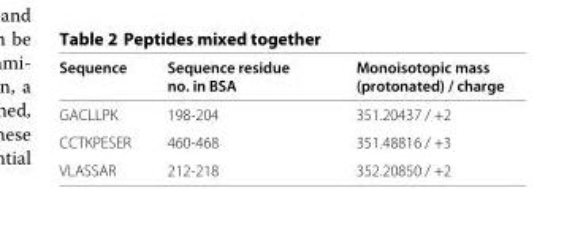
<table><thead><tr><td>Sequence</td><td>Sequence residue no. in BSA</td><td>Monoisotopic mass (protonated) / charge</td></tr></thead><tbody><tr><td>GACLLPK</td><td>198-204</td><td>351.20437 / +2</td></tr><tr><td>CCTKPESER</td><td>460-468</td><td>351.48816 / +3</td></tr><tr><td>VLASSAR</td><td>212-218</td><td>352.20850 / +2</td></tr></tbody></table>